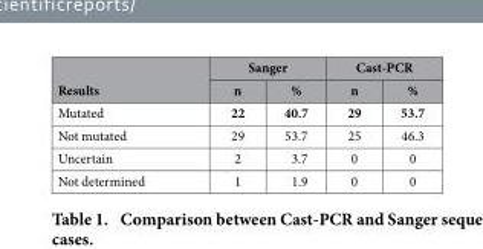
<table><thead><tr><td rowspan="2">Results</td><td colspan="2">Sanger</td><td colspan="2">Cast-PCR</td></tr><tr><td>n</td><td>%</td><td>n</td><td>%</td></tr></thead><tbody><tr><td>Mutated</td><td>22</td><td>40.7</td><td>29</td><td>53.7</td></tr><tr><td>Not mutated</td><td>29</td><td>53.7</td><td>25</td><td>46.3</td></tr><tr><td>Uncertain</td><td>2</td><td>3.7</td><td>0</td><td>0</td></tr><tr><td>Not determined</td><td>1</td><td>1.9</td><td>0</td><td>0</td></tr></tbody></table>